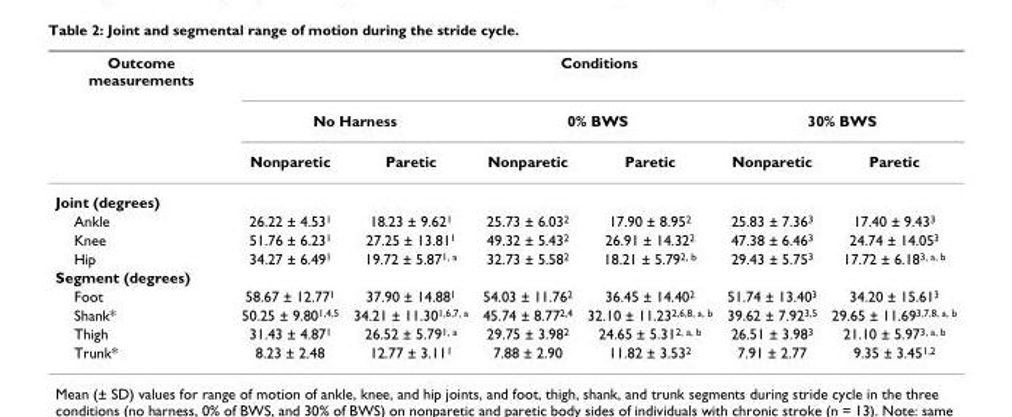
<table><thead><tr><td rowspan="3">Outcome measurements</td><td colspan="6">Conditions</td></tr><tr><td colspan="2">No Harness</td><td colspan="2">0% BWS</td><td colspan="2">30% BWS</td></tr><tr><td>Nonparetic</td><td>Paretic</td><td>Nonparetic</td><td>Paretic</td><td>Nonparetic</td><td>Paretic</td></tr></thead><tbody><tr><td colspan="7">Joint (degrees)</td></tr><tr><td>Ankle</td><td>26.22 ± 4.53<sup>1</sup></td><td>18.23 ± 9.62<sup>1</sup></td><td>25.73 ± 6.03<sup>2</sup></td><td>17.90 ± 8.95<sup>2</sup></td><td>25.83 ± 7.36<sup>3</sup></td><td>17.40 ± 9.43<sup>3</sup></td></tr><tr><td>Knee</td><td>51.76 ± 6.23<sup>1</sup></td><td>27.25 ± 13.81<sup>1</sup></td><td>49.32 ± 5.43<sup>2</sup></td><td>26.91 ± 14.32<sup>2</sup></td><td>47.38 ± 6.46<sup>3</sup></td><td>24.74 ± 14.05<sup>3</sup></td></tr><tr><td>Hip</td><td>34.27 ± 6.49<sup>1</sup></td><td>19.72 ± 5.87<sup>1, a</sup></td><td>32.73 ± 5.58<sup>2</sup></td><td>18.21 ± 5.79<sup>2, b</sup></td><td>29.43 ± 5.75<sup>3</sup></td><td>17.72 ± 6.18<sup>3, a, b</sup></td></tr><tr><td colspan="7">Segment (degrees)</td></tr><tr><td>Foot</td><td>58.67 ± 12.77<sup>1</sup></td><td>37.90 ± 14.88<sup>1</sup></td><td>54.03 ± 11.76<sup>2</sup></td><td>36.45 ± 14.40<sup>2</sup></td><td>51.74 ± 13.40<sup>3</sup></td><td>34.20 ± 15.61<sup>3</sup></td></tr><tr><td>Shank*</td><td>50.25 ± 9.80<sup>1,4,5</sup></td><td>34.21 ± 11.30<sup>1,6,7, a</sup></td><td>45.74 ± 8.77<sup>2,4</sup></td><td>32.10 ± 11.23<sup>2,6,8, a, b</sup></td><td>39.62 ± 7.92<sup>3,5</sup></td><td>29.65 ± 11.69<sup>3,7,8, a, b</sup></td></tr><tr><td>Thigh</td><td>31.43 ± 4.87<sup>1</sup></td><td>26.52 ± 5.79<sup>1, a</sup></td><td>29.75 ± 3.98<sup>2</sup></td><td>24.65 ± 5.31<sup>2, a, b</sup></td><td>26.51 ± 3.98<sup>3</sup></td><td>21.10 ± 5.97<sup>3, a, b</sup></td></tr><tr><td>Trunk*</td><td>8.23 ± 2.48</td><td>12.77 ± 3.11<sup>1</sup></td><td>7.88 ± 2.90</td><td>11.82 ± 3.53<sup>2</sup></td><td>7.91 ± 2.77</td><td>9.35 ± 3.45<sup>1,2</sup></td></tr></tbody></table>